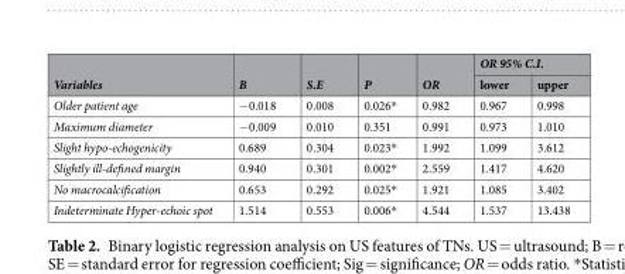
<table><thead><tr><td rowspan="2">Variables</td><td rowspan="2">B</td><td rowspan="2">S.E</td><td rowspan="2">P</td><td rowspan="2">OR</td><td colspan="2">OR 95% C.I.</td></tr><tr><td>lower</td><td>upper</td></tr></thead><tbody><tr><td>Older patient age</td><td>−0.018</td><td>0.008</td><td>0.026*</td><td>0.982</td><td>0.967</td><td>0.998</td></tr><tr><td>Maximum diameter</td><td>−0.009</td><td>0.010</td><td>0.351</td><td>0.991</td><td>0.973</td><td>1.010</td></tr><tr><td>Slight hypo-echogenicity</td><td>0.689</td><td>0.304</td><td>0.023*</td><td>1.992</td><td>1.099</td><td>3.612</td></tr><tr><td>Slightly ill-defined margin</td><td>0.940</td><td>0.301</td><td>0.002*</td><td>2.559</td><td>1.417</td><td>4.620</td></tr><tr><td>No macrocalcification</td><td>0.653</td><td>0.292</td><td>0.025*</td><td>1.921</td><td>1.085</td><td>3.402</td></tr><tr><td>Indeterminate Hyper-echoic spot</td><td>1.514</td><td>0.553</td><td>0.006*</td><td>4.544</td><td>1.537</td><td>13.438</td></tr></tbody></table>